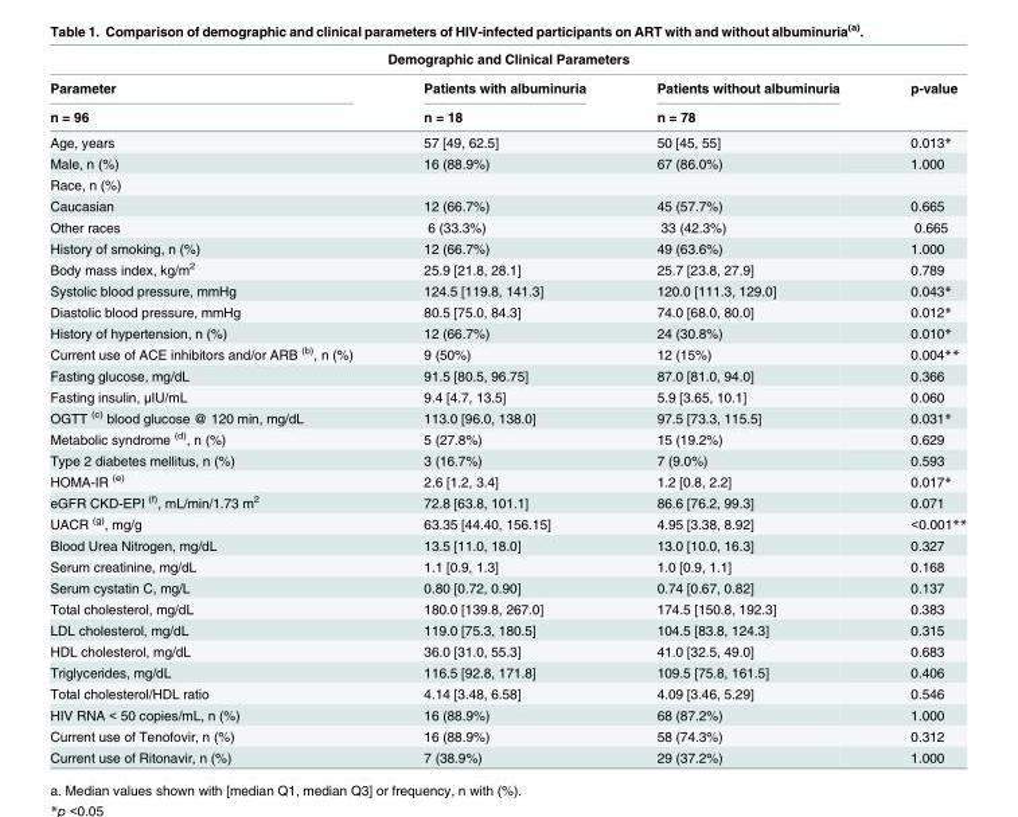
<table><thead><tr><td colspan="4">Demographic and Clinical Parameters</td></tr><tr><td rowspan="2">Parameter n = 96</td><td rowspan="2">Patients with albuminuria n = 18</td><td rowspan="2">Patients without albuminuria n = 78</td><td rowspan="2">p-value</td></tr><tr></tr></thead><tbody><tr><td>Age, years</td><td>57 [49, 62.5]</td><td>50 [45, 55]</td><td>0.013*</td></tr><tr><td>Male, n (%)</td><td>16 (88.9%)</td><td>67 (86.0%)</td><td>1.000</td></tr><tr><td colspan="4">Race, n (%)</td></tr><tr><td>Caucasian</td><td>12 (66.7%)</td><td>45 (57.7%)</td><td>0.665</td></tr><tr><td>Other races</td><td>6 (33.3%)</td><td>33 (42.3%)</td><td>0.665</td></tr><tr><td>History of smoking, n (%)</td><td>12 (66.7%)</td><td>49 (63.6%)</td><td>1.000</td></tr><tr><td>Body mass index, kg/m<sup>2</sup></td><td>25.9 [21.8, 28.1]</td><td>25.7 [23.8, 27.9]</td><td>0.789</td></tr><tr><td>Systolic blood pressure, mmHg</td><td>124.5 [119.8, 141.3]</td><td>120.0 [111.3, 129.0]</td><td>0.043*</td></tr><tr><td>Diastolic blood pressure, mmHg</td><td>80.5 [75.0, 84.3]</td><td>74.0 [68.0, 80.0]</td><td>0.012*</td></tr><tr><td>History of hypertension, n (%)</td><td>12 (66.7%)</td><td>24 (30.8%)</td><td>0.010*</td></tr><tr><td>Current use of ACE inhibitors and/or ARB <sup>(b)</sup>, n (%)</td><td>9 (50%)</td><td>12 (15%)</td><td>0.004**</td></tr><tr><td>Fasting glucose, mg/dL</td><td>91.5 [80.5, 96.75]</td><td>87.0 [81.0, 94.0]</td><td>0.366</td></tr><tr><td>Fasting insulin, μIU/mL</td><td>9.4 [4.7, 13.5]</td><td>5.9 [3.65, 10.1]</td><td>0.060</td></tr><tr><td>OGTT <sup>(c)</sup> blood glucose @ 120 min, mg/dL</td><td>113.0 [96.0, 138.0]</td><td>97.5 [73.3, 115.5]</td><td>0.031*</td></tr><tr><td>Metabolic syndrome <sup>(d)</sup>, n (%)</td><td>5 (27.8%)</td><td>15 (19.2%)</td><td>0.629</td></tr><tr><td>Type 2 diabetes mellitus, n (%)</td><td>3 (16.7%)</td><td>7 (9.0%)</td><td>0.593</td></tr><tr><td>HOMA-IR <sup>(e)</sup></td><td>2.6 [1.2, 3.4]</td><td>1.2 [0.8, 2.2]</td><td>0.017*</td></tr><tr><td>eGFR CKD-EPI <sup>(f)</sup>, mL/min/1.73 m<sup>2</sup></td><td>72.8 [63.8, 101.1]</td><td>86.6 [76.2, 99.3]</td><td>0.071</td></tr><tr><td>UACR <sup>(g)</sup>, mg/g</td><td>63.35 [44.40, 156.15]</td><td>4.95 [3.38, 8.92]</td><td>&lt;0.001**</td></tr><tr><td>Blood Urea Nitrogen, mg/dL</td><td>13.5 [11.0, 18.0]</td><td>13.0 [10.0, 16.3]</td><td>0.327</td></tr><tr><td>Serum creatinine, mg/dL</td><td>1.1 [0.9, 1.3]</td><td>1.0 [0.9, 1.1]</td><td>0.168</td></tr><tr><td>Serum cystatin C, mg/L</td><td>0.80 [0.72, 0.90]</td><td>0.74 [0.67, 0.82]</td><td>0.137</td></tr><tr><td>Total cholesterol, mg/dL</td><td>180.0 [139.8, 267.0]</td><td>174.5 [150.8, 192.3]</td><td>0.383</td></tr><tr><td>LDL cholesterol, mg/dL</td><td>119.0 [75.3, 180.5]</td><td>104.5 [83.8, 124.3]</td><td>0.315</td></tr><tr><td>HDL cholesterol, mg/dL</td><td>36.0 [31.0, 55.3]</td><td>41.0 [32.5, 49.0]</td><td>0.683</td></tr><tr><td>Triglycerides, mg/dL</td><td>116.5 [92.8, 171.8]</td><td>109.5 [75.8, 161.5]</td><td>0.406</td></tr><tr><td>Total cholesterol/HDL ratio</td><td>4.14 [3.48, 6.58]</td><td>4.09 [3.46, 5.29]</td><td>0.546</td></tr><tr><td>HIV RNA &lt; 50 copies/mL, n (%)</td><td>16 (88.9%)</td><td>68 (87.2%)</td><td>1.000</td></tr><tr><td>Current use of Tenofovir, n (%)</td><td>16 (88.9%)</td><td>58 (74.3%)</td><td>0.312</td></tr><tr><td>Current use of Ritonavir, n (%)</td><td>7 (38.9%)</td><td>29 (37.2%)</td><td>1.000</td></tr></tbody></table>